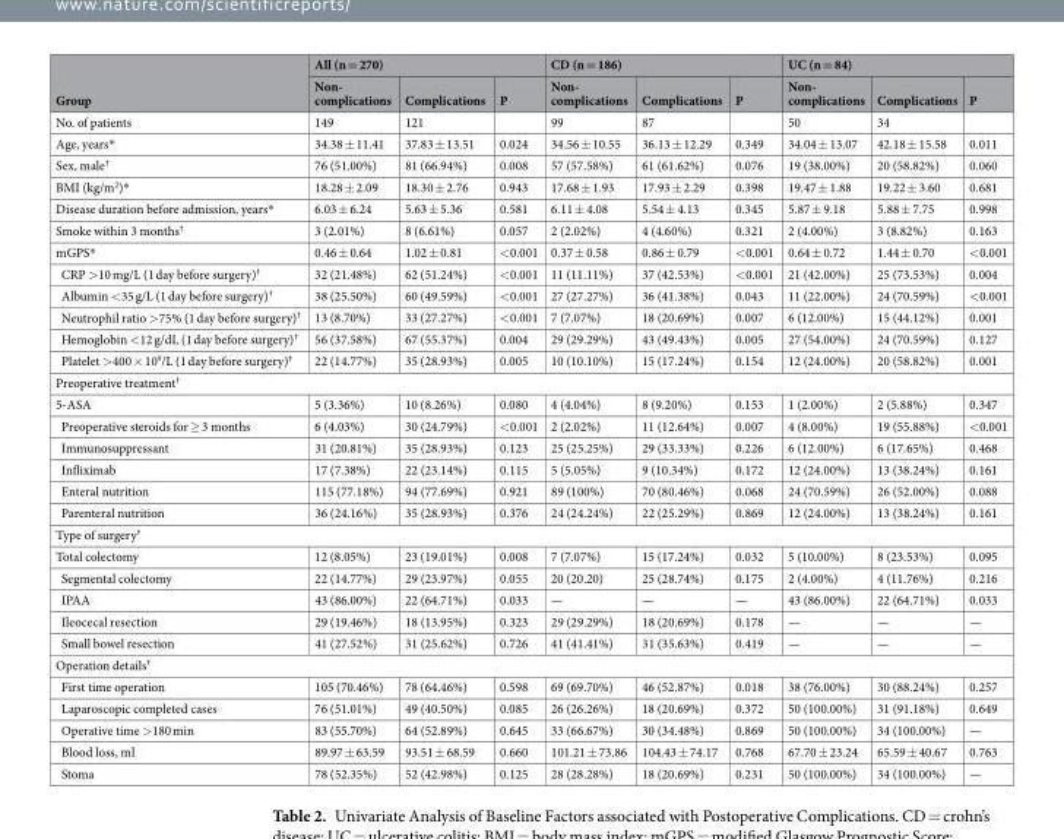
<table><thead><tr><td rowspan="2">Group</td><td colspan="3">All (n = 270)</td><td colspan="3">CD (n = 186)</td><td colspan="3">UC (n = 84)</td></tr><tr><td>Non- complications</td><td>Complications</td><td>P</td><td>Non- complications</td><td>Complications</td><td>P</td><td>Non- complications</td><td>Complications</td><td>P</td></tr></thead><tbody><tr><td>No. of patients</td><td>149</td><td>121</td><td></td><td>99</td><td>87</td><td></td><td>50</td><td>34</td><td></td></tr><tr><td>Age, years*</td><td>34.38 ± 11.41</td><td>37.83 ± 13.51</td><td>0.024</td><td>34.56 ± 10.55</td><td>36.13 ± 12.29</td><td>0.349</td><td>34.04 ± 13.07</td><td>42.18 ± 15.58</td><td>0.011</td></tr><tr><td>Sex, male<sup>†</sup></td><td>76 (51.00%)</td><td>81 (66.94%)</td><td>0.008</td><td>57 (57.58%)</td><td>61 (61.62%)</td><td>0.076</td><td>19 (38.00%)</td><td>20 (58.82%)</td><td>0.060</td></tr><tr><td>BMI (kg/m<sup>2</sup>)*</td><td>18.28 ± 2.09</td><td>18.30 ± 2.76</td><td>0.943</td><td>17.68 ± 1.93</td><td>17.93 ± 2.29</td><td>0.398</td><td>19.47 ± 1.88</td><td>19.22 ± 3.60</td><td>0.681</td></tr><tr><td>Disease duration before admission, years*</td><td>6.03 ± 6.24</td><td>5.63 ± 5.36</td><td>0.581</td><td>6.11 ± 4.08</td><td>5.54 ± 4.13</td><td>0.345</td><td>5.87 ± 9.18</td><td>5.88 ± 7.75</td><td>0.998</td></tr><tr><td>Smoke within 3 months<sup>†</sup></td><td>3 (2.01%)</td><td>8 (6.61%)</td><td>0.057</td><td>2 (2.02%)</td><td>4 (4.60%)</td><td>0.321</td><td>2 (4.00%)</td><td>3 (8.82%)</td><td>0.163</td></tr><tr><td>mGPS*</td><td>0.46 ± 0.64</td><td>1.02 ± 0.81</td><td>&lt;0.001</td><td>0.37 ± 0.58</td><td>0.86 ± 0.79</td><td>&lt;0.001</td><td>0.64 ± 0.72</td><td>1.44 ± 0.70</td><td>&lt;0.001</td></tr><tr><td>CRP &gt;10 mg/L (1 day before surgery)<sup>†</sup></td><td>32 (21.48%)</td><td>62 (51.24%)</td><td>&lt;0.001</td><td>11 (11.11%)</td><td>37 (42.53%)</td><td>&lt;0.001</td><td>21 (42.00%)</td><td>25 (73.53%)</td><td>0.004</td></tr><tr><td>Albumin &lt;35 g/L (1 day before surgery)<sup>†</sup></td><td>38 (25.50%)</td><td>60 (49.59%)</td><td>&lt;0.001</td><td>27 (27.27%)</td><td>36 (41.38%)</td><td>0.043</td><td>11 (22.00%)</td><td>24 (70.59%)</td><td>&lt;0.001</td></tr><tr><td>Neutrophil ratio &gt;75% (1 day before surgery)<sup>†</sup></td><td>13 (8.70%)</td><td>33 (27.27%)</td><td>&lt;0.001</td><td>7 (7.07%)</td><td>18 (20.69%)</td><td>0.007</td><td>6 (12.00%)</td><td>15 (44.12%)</td><td>0.001</td></tr><tr><td>Hemoglobin &lt;12 g/dL (1 day before surgery)<sup>†</sup></td><td>56 (37.58%)</td><td>67 (55.37%)</td><td>0.004</td><td>29 (29.29%)</td><td>43 (49.43%)</td><td>0.005</td><td>27 (54.00%)</td><td>24 (70.59%)</td><td>0.127</td></tr><tr><td>Platelet &gt;400 × 10<sup>9</sup>/L (1 day before surgery)<sup>†</sup></td><td>22 (14.77%)</td><td>35 (28.93%)</td><td>0.005</td><td>10 (10.10%)</td><td>15 (17.24%)</td><td>0.154</td><td>12 (24.00%)</td><td>20 (58.82%)</td><td>0.001</td></tr><tr><td colspan="10">Preoperative treatment<sup>†</sup></td></tr><tr><td>5-ASA</td><td>5 (3.36%)</td><td>10 (8.26%)</td><td>0.080</td><td>4 (4.04%)</td><td>8 (9.20%)</td><td>0.153</td><td>1 (2.00%)</td><td>2 (5.88%)</td><td>0.347</td></tr><tr><td>Preoperative steroids for ≥ 3 months</td><td>6 (4.03%)</td><td>30 (24.79%)</td><td>&lt;0.001</td><td>2 (2.02%)</td><td>11 (12.64%)</td><td>0.007</td><td>4 (8.00%)</td><td>19 (55.88%)</td><td>&lt;0.001</td></tr><tr><td>Immunosuppressant</td><td>31 (20.81%)</td><td>35 (28.93%)</td><td>0.123</td><td>25 (25.25%)</td><td>29 (33.33%)</td><td>0.226</td><td>6 (12.00%)</td><td>6 (17.65%)</td><td>0.468</td></tr><tr><td>Infliximab</td><td>17 (7.38%)</td><td>22 (23.14%)</td><td>0.115</td><td>5 (5.05%)</td><td>9 (10.34%)</td><td>0.172</td><td>12 (24.00%)</td><td>13 (38.24%)</td><td>0.161</td></tr><tr><td>Enteral nutrition</td><td>115 (77.18%)</td><td>94 (77.69%)</td><td>0.921</td><td>89 (100%)</td><td>70 (80.46%)</td><td>0.068</td><td>24 (70.59%)</td><td>26 (52.00%)</td><td>0.088</td></tr><tr><td>Parenteral nutrition</td><td>36 (24.16%)</td><td>35 (28.93%)</td><td>0.376</td><td>24 (24.24%)</td><td>22 (25.29%)</td><td>0.869</td><td>12 (24.00%)</td><td>13 (38.24%)</td><td>0.161</td></tr><tr><td colspan="10">Type of surgery<sup>†</sup></td></tr><tr><td>Total colectomy</td><td>12 (8.05%)</td><td>23 (19.01%)</td><td>0.008</td><td>7 (7.07%)</td><td>15 (17.24%)</td><td>0.032</td><td>5 (10.00%)</td><td>8 (23.53%)</td><td>0.095</td></tr><tr><td>Segmental colectomy</td><td>22 (14.77%)</td><td>29 (23.97%)</td><td>0.055</td><td>20 (20.20)</td><td>25 (28.74%)</td><td>0.175</td><td>2 (4.00%)</td><td>4 (11.76%)</td><td>0.216</td></tr><tr><td>IPAA</td><td>43 (86.00%)</td><td>22 (64.71%)</td><td>0.033</td><td>—</td><td>—</td><td>—</td><td>43 (86.00%)</td><td>22 (64.71%)</td><td>0.033</td></tr><tr><td>Ileocecal resection</td><td>29 (19.46%)</td><td>18 (13.95%)</td><td>0.323</td><td>29 (29.29%)</td><td>18 (20.69%)</td><td>0.178</td><td>—</td><td>—</td><td>—</td></tr><tr><td>Small bowel resection</td><td>41 (27.52%)</td><td>31 (25.62%)</td><td>0.726</td><td>41 (41.41%)</td><td>31 (35.63%)</td><td>0.419</td><td>—</td><td>—</td><td>—</td></tr><tr><td colspan="10">Operation details<sup>†</sup></td></tr><tr><td>First time operation</td><td>105 (70.46%)</td><td>78 (64.46%)</td><td>0.598</td><td>69 (69.70%)</td><td>46 (52.87%)</td><td>0.018</td><td>38 (76.00%)</td><td>30 (88.24%)</td><td>0.257</td></tr><tr><td>Laparoscopic completed cases</td><td>76 (51.01%)</td><td>49 (40.50%)</td><td>0.085</td><td>26 (26.26%)</td><td>18 (20.69%)</td><td>0.372</td><td>50 (100.00%)</td><td>31 (91.18%)</td><td>0.649</td></tr><tr><td>Operative time &gt;180 min</td><td>83 (55.70%)</td><td>64 (52.89%)</td><td>0.645</td><td>33 (66.67%)</td><td>30 (34.48%)</td><td>0.869</td><td>50 (100.00%)</td><td>34 (100.00%)</td><td>—</td></tr><tr><td>Blood loss, ml</td><td>89.97 ± 63.59</td><td>93.51 ± 68.59</td><td>0.660</td><td>101.21 ± 73.86</td><td>104.43 ± 74.17</td><td>0.768</td><td>67.70 ± 23.24</td><td>65.59 ± 40.67</td><td>0.763</td></tr><tr><td>Stoma</td><td>78 (52.35%)</td><td>52 (42.98%)</td><td>0.125</td><td>28 (28.28%)</td><td>18 (20.69%)</td><td>0.231</td><td>50 (100.00%)</td><td>34 (100.00%)</td><td>—</td></tr></tbody></table>